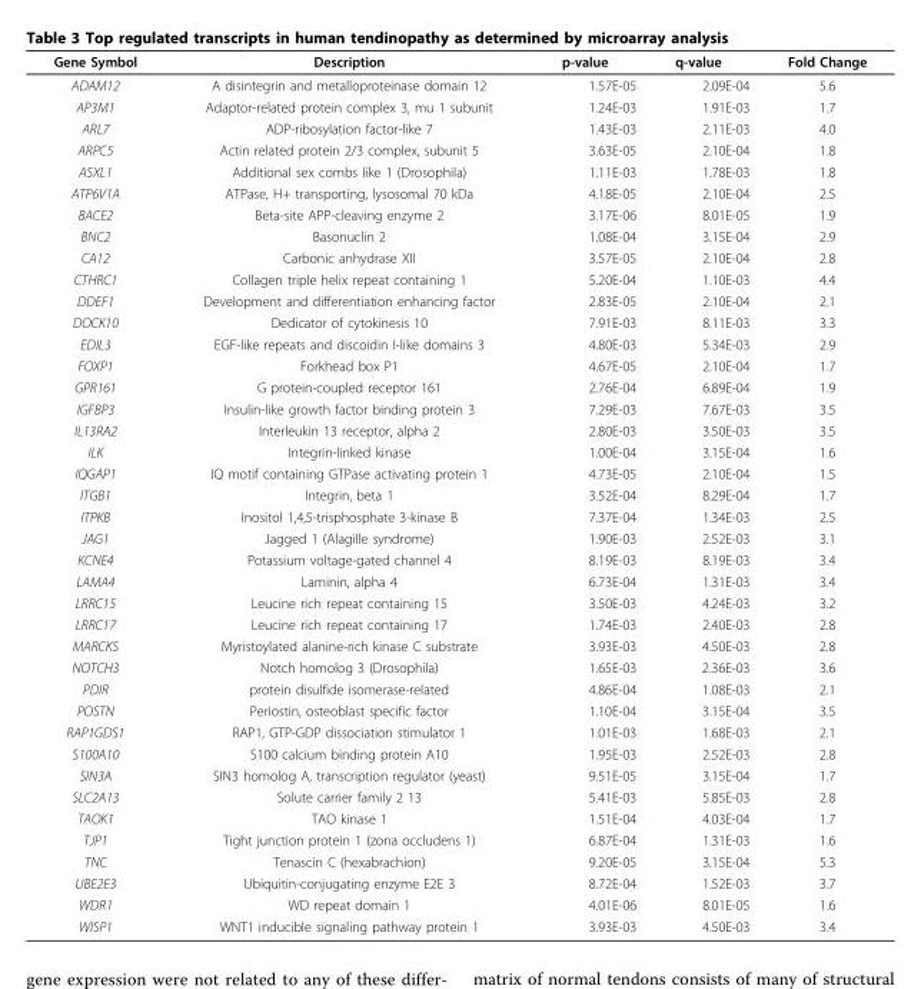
<table><thead><tr><td>Gene Symbol</td><td>Description</td><td>p-value</td><td>q-value</td><td>Fold Change</td></tr></thead><tbody><tr><td>ADAM12</td><td>A disintegrin and metalloproteinase domain 12</td><td>1.57E-05</td><td>2.09E-04</td><td>5.6</td></tr><tr><td>AP3M1</td><td>Adaptor-related protein complex 3, mu 1 subunit</td><td>1.24E-03</td><td>1.91E-03</td><td>1.7</td></tr><tr><td>ARL7</td><td>ADP-ribosylation factor-like 7</td><td>1.43E-03</td><td>2.11E-03</td><td>4.0</td></tr><tr><td>ARPC5</td><td>Actin related protein 2/3 complex, subunit 5</td><td>3.63E-05</td><td>2.10E-04</td><td>1.8</td></tr><tr><td>ASXL1</td><td>Additional sex combs like 1 (Drosophila)</td><td>1.11E-03</td><td>1.78E-03</td><td>1.8</td></tr><tr><td>ATP6V1A</td><td>ATPase, H+ transporting, lysosomal 70 kDa</td><td>4.18E-05</td><td>2.10E-04</td><td>2.5</td></tr><tr><td>BACE2</td><td>Beta-site APP-cleaving enzyme 2</td><td>3.17E-06</td><td>8.01E-05</td><td>1.9</td></tr><tr><td>BNC2</td><td>Basonuclin 2</td><td>1.08E-04</td><td>3.15E-04</td><td>2.9</td></tr><tr><td>CA12</td><td>Carbonic anhydrase XII</td><td>3.57E-05</td><td>2.10E-04</td><td>2.8</td></tr><tr><td>CTHRC1</td><td>Collagen triple helix repeat containing 1</td><td>5.20E-04</td><td>1.10E-03</td><td>4.4</td></tr><tr><td>DDEF1</td><td>Development and differentiation enhancing factor</td><td>2.83E-05</td><td>2.10E-04</td><td>2.1</td></tr><tr><td>DOCK10</td><td>Dedicator of cytokinesis 10</td><td>7.91E-03</td><td>8.11E-03</td><td>3.3</td></tr><tr><td>EDIL3</td><td>EGF-like repeats and discoidin I-like domains 3</td><td>4.80E-03</td><td>5.34E-03</td><td>2.9</td></tr><tr><td>FOXP1</td><td>Forkhead box P1</td><td>4.67E-05</td><td>2.10E-04</td><td>1.7</td></tr><tr><td>GPR161</td><td>G protein-coupled receptor 161</td><td>2.76E-04</td><td>6.89E-04</td><td>1.9</td></tr><tr><td>IGFBP3</td><td>Insulin-like growth factor binding protein 3</td><td>7.29E-03</td><td>7.67E-03</td><td>3.5</td></tr><tr><td>IL13RA2</td><td>Interleukin 13 receptor, alpha 2</td><td>2.80E-03</td><td>3.50E-03</td><td>3.5</td></tr><tr><td>ILK</td><td>Integrin-linked kinase</td><td>1.00E-04</td><td>3.15E-04</td><td>1.6</td></tr><tr><td>IQGAP1</td><td>IQ motif containing GTPase activating protein 1</td><td>4.73E-05</td><td>2.10E-04</td><td>1.5</td></tr><tr><td>ITGB1</td><td>Integrin, beta 1</td><td>3.52E-04</td><td>8.29E-04</td><td>1.7</td></tr><tr><td>ITPKB</td><td>Inositol 1,4,5-trisphosphate 3-kinase B</td><td>7.37E-04</td><td>1.34E-03</td><td>2.5</td></tr><tr><td>JAG1</td><td>Jagged 1 (Alagille syndrome)</td><td>1.90E-03</td><td>2.52E-03</td><td>3.1</td></tr><tr><td>KCNE4</td><td>Potassium voltage-gated channel 4</td><td>8.19E-03</td><td>8.19E-03</td><td>3.4</td></tr><tr><td>LAMA4</td><td>Laminin, alpha 4</td><td>6.73E-04</td><td>1.31E-03</td><td>3.4</td></tr><tr><td>LRRC15</td><td>Leucine rich repeat containing 15</td><td>3.50E-03</td><td>4.24E-03</td><td>3.2</td></tr><tr><td>LRRC17</td><td>Leucine rich repeat containing 17</td><td>1.74E-03</td><td>2.40E-03</td><td>2.8</td></tr><tr><td>MARCKS</td><td>Myristoylated alanine-rich kinase C substrate</td><td>3.93E-03</td><td>4.50E-03</td><td>2.8</td></tr><tr><td>NOTCH3</td><td>Notch homolog 3 (Drosophila)</td><td>1.65E-03</td><td>2.36E-03</td><td>3.6</td></tr><tr><td>PDIR</td><td>protein disulfide isomerase-related</td><td>4.86E-04</td><td>1.08E-03</td><td>2.1</td></tr><tr><td>POSTN</td><td>Periostin, osteoblast specific factor</td><td>1.10E-04</td><td>3.15E-04</td><td>3.5</td></tr><tr><td>RAP1GDS1</td><td>RAP1, GTP-GDP dissociation stimulator 1</td><td>1.01E-03</td><td>1.68E-03</td><td>2.1</td></tr><tr><td>S100A10</td><td>S100 calcium binding protein A10</td><td>1.95E-03</td><td>2.52E-03</td><td>2.8</td></tr><tr><td>SIN3A</td><td>SIN3 homolog A, transcription regulator (yeast)</td><td>9.51E-05</td><td>3.15E-04</td><td>1.7</td></tr><tr><td>SLC2A13</td><td>Solute carrier family 2 13</td><td>5.41E-03</td><td>5.85E-03</td><td>2.8</td></tr><tr><td>TAOK1</td><td>TAO kinase 1</td><td>1.51E-04</td><td>4.03E-04</td><td>1.7</td></tr><tr><td>TJP1</td><td>Tight junction protein 1 (zona occludens 1)</td><td>6.87E-04</td><td>1.31E-03</td><td>1.6</td></tr><tr><td>TNC</td><td>Tenascin C (hexabrachion)</td><td>9.20E-05</td><td>3.15E-04</td><td>5.3</td></tr><tr><td>UBE2E3</td><td>Ubiquitin-conjugating enzyme E2E 3</td><td>8.72E-04</td><td>1.52E-03</td><td>3.7</td></tr><tr><td>WDR1</td><td>WD repeat domain 1</td><td>4.01E-06</td><td>8.01E-05</td><td>1.6</td></tr><tr><td>WISP1</td><td>WNT1 inducible signaling pathway protein 1</td><td>3.93E-03</td><td>4.50E-03</td><td>3.4</td></tr></tbody></table>